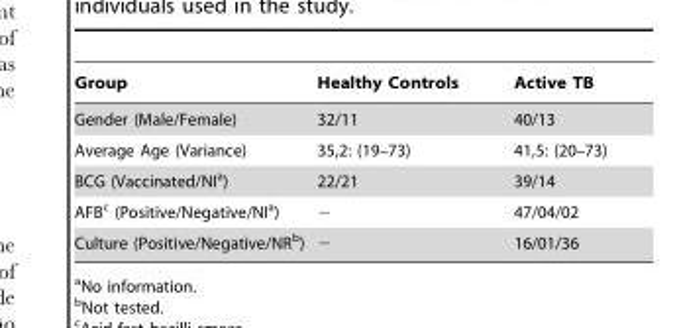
<table><thead><tr><td>Group</td><td>Healthy Controls</td><td>Active TB</td></tr></thead><tbody><tr><td>Gender (Male/Female)</td><td>32/11</td><td>40/13</td></tr><tr><td>Average Age (Variance)</td><td>35,2: (19–73)</td><td>41,5: (20–73)</td></tr><tr><td>BCG (Vaccinated/NI<sup>a</sup>)</td><td>22/21</td><td>39/14</td></tr><tr><td>AFB<sup>c</sup> (Positive/Negative/NI<sup>a</sup>)</td><td>−</td><td>47/04/02</td></tr><tr><td>Culture (Positive/Negative/NR<sup>b</sup>)</td><td>−</td><td>16/01/36</td></tr></tbody></table>